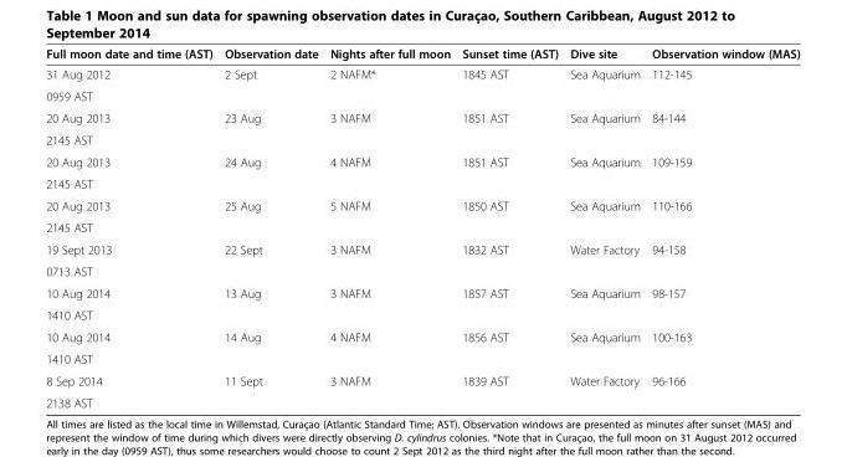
<table><thead><tr><td>Full moon date and time (AST)</td><td>Observation date</td><td>Nights after full moon</td><td>Sunset time (AST)</td><td>Dive site</td><td>Observation window (MAS)</td></tr></thead><tbody><tr><td>31 Aug 2012</td><td rowspan="2">2 Sept</td><td rowspan="2">2 NAFM*</td><td rowspan="2">1845 AST</td><td rowspan="2">Sea Aquarium</td><td rowspan="2">112-145</td></tr><tr><td>0959 AST</td></tr><tr><td>20 Aug 2013</td><td rowspan="2">23 Aug</td><td rowspan="2">3 NAFM</td><td rowspan="2">1851 AST</td><td rowspan="2">Sea Aquarium</td><td rowspan="2">84-144</td></tr><tr><td>2145 AST</td></tr><tr><td>20 Aug 2013</td><td rowspan="2">24 Aug</td><td rowspan="2">4 NAFM</td><td rowspan="2">1851 AST</td><td rowspan="2">Sea Aquarium</td><td rowspan="2">109-159</td></tr><tr><td>2145 AST</td></tr><tr><td>20 Aug 2013</td><td rowspan="2">25 Aug</td><td rowspan="2">5 NAFM</td><td rowspan="2">1850 AST</td><td rowspan="2">Sea Aquarium</td><td rowspan="2">110-166</td></tr><tr><td>2145 AST</td></tr><tr><td>19 Sept 2013</td><td rowspan="2">22 Sept</td><td rowspan="2">3 NAFM</td><td rowspan="2">1832 AST</td><td rowspan="2">Water Factory</td><td rowspan="2">94-158</td></tr><tr><td>0713 AST</td></tr><tr><td>10 Aug 2014</td><td rowspan="2">13 Aug</td><td rowspan="2">3 NAFM</td><td rowspan="2">1857 AST</td><td rowspan="2">Sea Aquarium</td><td rowspan="2">98-157</td></tr><tr><td>1410 AST</td></tr><tr><td>10 Aug 2014</td><td rowspan="2">14 Aug</td><td rowspan="2">4 NAFM</td><td rowspan="2">1856 AST</td><td rowspan="2">Sea Aquarium</td><td rowspan="2">100-163</td></tr><tr><td>1410 AST</td></tr><tr><td>8 Sep 2014</td><td rowspan="2">11 Sept</td><td rowspan="2">3 NAFM</td><td rowspan="2">1839 AST</td><td rowspan="2">Water Factory</td><td rowspan="2">96-166</td></tr><tr><td>2138 AST</td></tr></tbody></table>